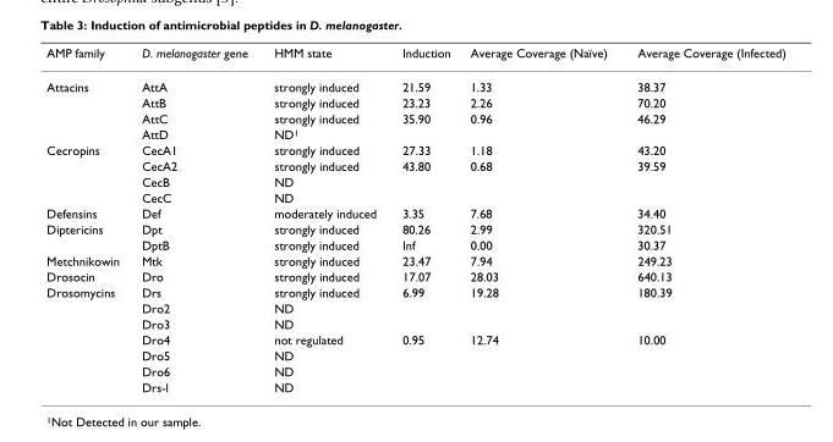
<table><thead><tr><td>AMP family</td><td>D. melanogaster gene</td><td>HMM state</td><td>Induction</td><td>Average Coverage (Naïve)</td><td>Average Coverage (Infected)</td></tr></thead><tbody><tr><td rowspan="4">Attacins</td><td>AttA</td><td>strongly induced</td><td>21.59</td><td>1.33</td><td>38.37</td></tr><tr><td>AttB</td><td>strongly induced</td><td>23.23</td><td>2.26</td><td>70.20</td></tr><tr><td>AttC</td><td>strongly induced</td><td>35.90</td><td>0.96</td><td>46.29</td></tr><tr><td>AttD</td><td>ND<sup>1</sup></td><td></td><td></td><td></td></tr><tr><td rowspan="4">Cecropins</td><td>CecA1</td><td>strongly induced</td><td>27.33</td><td>1.18</td><td>43.20</td></tr><tr><td>CecA2</td><td>strongly induced</td><td>43.80</td><td>0.68</td><td>39.59</td></tr><tr><td>CecB</td><td>ND</td><td></td><td></td><td></td></tr><tr><td>CecC</td><td>ND</td><td></td><td></td><td></td></tr><tr><td>Defensins</td><td>Def</td><td>moderately induced</td><td>3.35</td><td>7.68</td><td>34.40</td></tr><tr><td rowspan="2">Diptericins</td><td>Dpt</td><td>strongly induced</td><td>80.26</td><td>2.99</td><td>320.51</td></tr><tr><td>DptB</td><td>strongly induced</td><td>Inf</td><td>0.00</td><td>30.37</td></tr><tr><td>Metchnikowin</td><td>Mtk</td><td>strongly induced</td><td>23.47</td><td>7.94</td><td>249.23</td></tr><tr><td>Drosocin</td><td>Dro</td><td>strongly induced</td><td>17.07</td><td>28.03</td><td>640.13</td></tr><tr><td rowspan="7">Drosomycins</td><td>Drs</td><td>strongly induced</td><td>6.99</td><td>19.28</td><td>180.39</td></tr><tr><td>Dro2</td><td>ND</td><td></td><td></td><td></td></tr><tr><td>Dro3</td><td>ND</td><td></td><td></td><td></td></tr><tr><td>Dro4</td><td>not regulated</td><td>0.95</td><td>12.74</td><td>10.00</td></tr><tr><td>Dro5</td><td>ND</td><td></td><td></td><td></td></tr><tr><td>Dro6</td><td>ND</td><td></td><td></td><td></td></tr><tr><td>Drs-l</td><td>ND</td><td></td><td></td><td></td></tr></tbody></table>